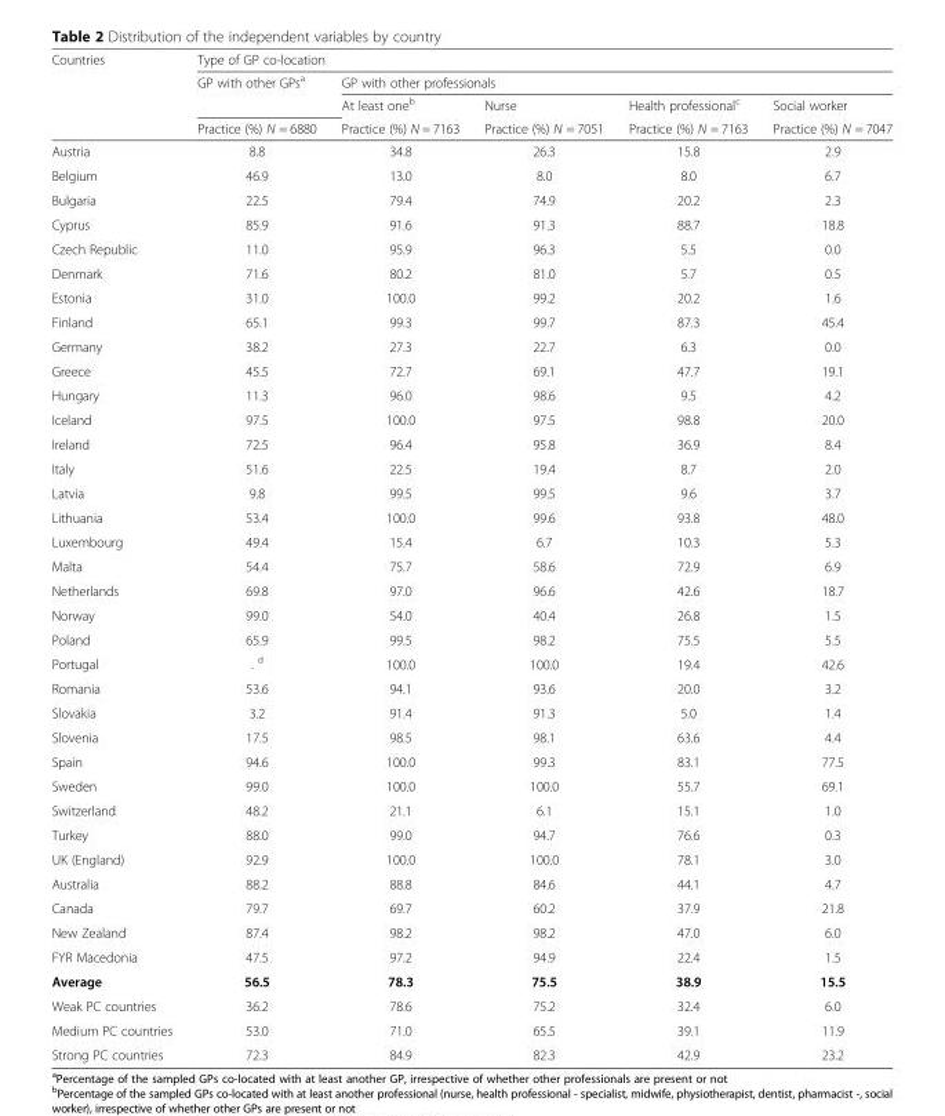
<table><thead><tr><td rowspan="4">Countries</td><td colspan="5">Type of GP co-location</td></tr><tr><td rowspan="3">GP with other GPs<sup>a</sup> Practice (%) N = 6880</td><td colspan="4">GP with other professionals</td></tr><tr><td rowspan="2">At least one<sup>b</sup> Practice (%) N = 7163</td><td rowspan="2">Nurse Practice (%) N = 7051</td><td rowspan="2">Health professional<sup>c</sup> Practice (%) N = 7163</td><td rowspan="2">Social worker Practice (%) N = 7047</td></tr><tr></tr></thead><tbody><tr><td>Austria</td><td>8.8</td><td>34.8</td><td>26.3</td><td>15.8</td><td>2.9</td></tr><tr><td>Belgium</td><td>46.9</td><td>13.0</td><td>8.0</td><td>8.0</td><td>6.7</td></tr><tr><td>Bulgaria</td><td>22.5</td><td>79.4</td><td>74.9</td><td>20.2</td><td>2.3</td></tr><tr><td>Cyprus</td><td>85.9</td><td>91.6</td><td>91.3</td><td>88.7</td><td>18.8</td></tr><tr><td>Czech Republic</td><td>11.0</td><td>95.9</td><td>96.3</td><td>5.5</td><td>0.0</td></tr><tr><td>Denmark</td><td>71.6</td><td>80.2</td><td>81.0</td><td>5.7</td><td>0.5</td></tr><tr><td>Estonia</td><td>31.0</td><td>100.0</td><td>99.2</td><td>20.2</td><td>1.6</td></tr><tr><td>Finland</td><td>65.1</td><td>99.3</td><td>99.7</td><td>87.3</td><td>45.4</td></tr><tr><td>Germany</td><td>38.2</td><td>27.3</td><td>22.7</td><td>6.3</td><td>0.0</td></tr><tr><td>Greece</td><td>45.5</td><td>72.7</td><td>69.1</td><td>47.7</td><td>19.1</td></tr><tr><td>Hungary</td><td>11.3</td><td>96.0</td><td>98.6</td><td>9.5</td><td>4.2</td></tr><tr><td>Iceland</td><td>97.5</td><td>100.0</td><td>97.5</td><td>98.8</td><td>20.0</td></tr><tr><td>Ireland</td><td>72.5</td><td>96.4</td><td>95.8</td><td>36.9</td><td>8.4</td></tr><tr><td>Italy</td><td>51.6</td><td>22.5</td><td>19.4</td><td>8.7</td><td>2.0</td></tr><tr><td>Latvia</td><td>9.8</td><td>99.5</td><td>99.5</td><td>9.6</td><td>3.7</td></tr><tr><td>Lithuania</td><td>53.4</td><td>100.0</td><td>99.6</td><td>93.8</td><td>48.0</td></tr><tr><td>Luxembourg</td><td>49.4</td><td>15.4</td><td>6.7</td><td>10.3</td><td>5.3</td></tr><tr><td>Malta</td><td>54.4</td><td>75.7</td><td>58.6</td><td>72.9</td><td>6.9</td></tr><tr><td>Netherlands</td><td>69.8</td><td>97.0</td><td>96.6</td><td>42.6</td><td>18.7</td></tr><tr><td>Norway</td><td>99.0</td><td>54.0</td><td>40.4</td><td>26.8</td><td>1.5</td></tr><tr><td>Poland</td><td>65.9</td><td>99.5</td><td>98.2</td><td>75.5</td><td>5.5</td></tr><tr><td>Portugal</td><td>. <sup>d</sup></td><td>100.0</td><td>100.0</td><td>19.4</td><td>42.6</td></tr><tr><td>Romania</td><td>53.6</td><td>94.1</td><td>93.6</td><td>20.0</td><td>3.2</td></tr><tr><td>Slovakia</td><td>3.2</td><td>91.4</td><td>91.3</td><td>5.0</td><td>1.4</td></tr><tr><td>Slovenia</td><td>17.5</td><td>98.5</td><td>98.1</td><td>63.6</td><td>4.4</td></tr><tr><td>Spain</td><td>94.6</td><td>100.0</td><td>99.3</td><td>83.1</td><td>77.5</td></tr><tr><td>Sweden</td><td>99.0</td><td>100.0</td><td>100.0</td><td>55.7</td><td>69.1</td></tr><tr><td>Switzerland</td><td>48.2</td><td>21.1</td><td>6.1</td><td>15.1</td><td>1.0</td></tr><tr><td>Turkey</td><td>88.0</td><td>99.0</td><td>94.7</td><td>76.6</td><td>0.3</td></tr><tr><td>UK (England)</td><td>92.9</td><td>100.0</td><td>100.0</td><td>78.1</td><td>3.0</td></tr><tr><td>Australia</td><td>88.2</td><td>88.8</td><td>84.6</td><td>44.1</td><td>4.7</td></tr><tr><td>Canada</td><td>79.7</td><td>69.7</td><td>60.2</td><td>37.9</td><td>21.8</td></tr><tr><td>New Zealand</td><td>87.4</td><td>98.2</td><td>98.2</td><td>47.0</td><td>6.0</td></tr><tr><td>FYR Macedonia</td><td>47.5</td><td>97.2</td><td>94.9</td><td>22.4</td><td>1.5</td></tr><tr><td>Average</td><td>56.5</td><td>78.3</td><td>75.5</td><td>38.9</td><td>15.5</td></tr><tr><td>Weak PC countries</td><td>36.2</td><td>78.6</td><td>75.2</td><td>32.4</td><td>6.0</td></tr><tr><td>Medium PC countries</td><td>53.0</td><td>71.0</td><td>65.5</td><td>39.1</td><td>11.9</td></tr><tr><td>Strong PC countries</td><td>72.3</td><td>84.9</td><td>82.3</td><td>42.9</td><td>23.2</td></tr></tbody></table>